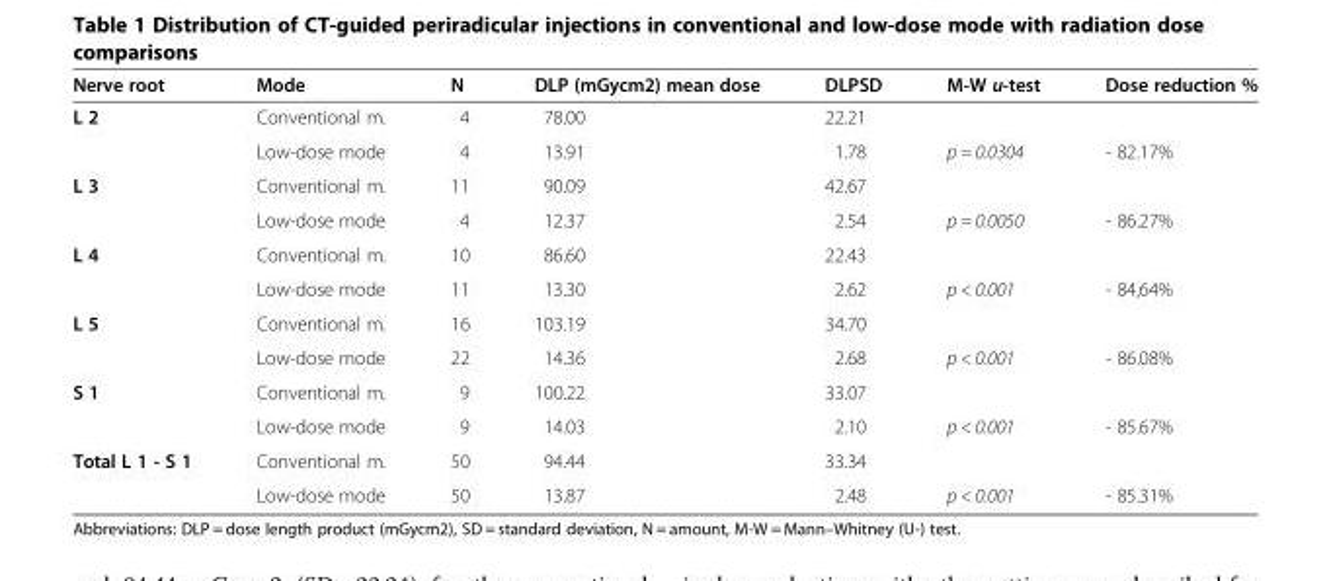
<table><thead><tr><td>Nerve root</td><td>Mode</td><td>N</td><td>DLP (mGycm2) mean dose</td><td>DLPSD</td><td>M-W u-test</td><td>Dose reduction %</td></tr></thead><tbody><tr><td rowspan="2">L 2</td><td>Conventional m.</td><td>4</td><td>78.00</td><td>22.21</td><td></td><td></td></tr><tr><td>Low-dose mode</td><td>4</td><td>13.91</td><td>1.78</td><td>p = 0.0304</td><td>- 82.17%</td></tr><tr><td rowspan="2">L 3</td><td>Conventional m.</td><td>11</td><td>90.09</td><td>42.67</td><td></td><td></td></tr><tr><td>Low-dose mode</td><td>4</td><td>12.37</td><td>2.54</td><td>p = 0.0050</td><td>- 86.27%</td></tr><tr><td rowspan="2">L 4</td><td>Conventional m.</td><td>10</td><td>86.60</td><td>22.43</td><td></td><td></td></tr><tr><td>Low-dose mode</td><td>11</td><td>13.30</td><td>2.62</td><td>p &lt; 0.001</td><td>- 84,64%</td></tr><tr><td rowspan="2">L 5</td><td>Conventional m.</td><td>16</td><td>103.19</td><td>34.70</td><td></td><td></td></tr><tr><td>Low-dose mode</td><td>22</td><td>14.36</td><td>2.68</td><td>p &lt; 0.001</td><td>- 86.08%</td></tr><tr><td rowspan="2">S 1</td><td>Conventional m.</td><td>9</td><td>100.22</td><td>33.07</td><td></td><td></td></tr><tr><td>Low-dose mode</td><td>9</td><td>14.03</td><td>2.10</td><td>p &lt; 0.001</td><td>- 85.67%</td></tr><tr><td rowspan="2">Total L 1 - S 1</td><td>Conventional m.</td><td>50</td><td>94.44</td><td>33.34</td><td></td><td></td></tr><tr><td>Low-dose mode</td><td>50</td><td>13.87</td><td>2.48</td><td>p &lt; 0.001</td><td>- 85.31%</td></tr></tbody></table>